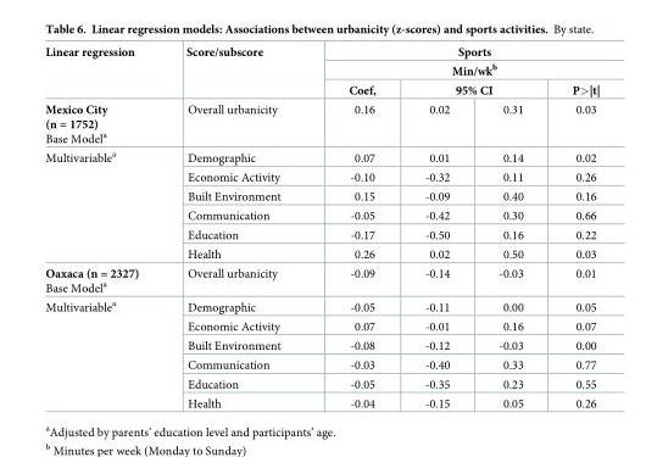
<table><thead><tr><td rowspan="4">Linear regression Mexico City (n = 1752) Base Model<sup>a</sup></td><td rowspan="4">Score/subscore Overall urbanicity</td><td rowspan="2" colspan="4">Sports Min/wk<sup>b</sup></td></tr><tr></tr><tr><td rowspan="2">Coef, 0.16</td><td colspan="2">95% CI</td><td rowspan="2">P&gt;|t| 0.03</td></tr><tr><td>0.02</td><td>0.31</td></tr></thead><tbody><tr><td rowspan="6">Multivariable<sup>a</sup></td><td>Demographic</td><td>0.07</td><td>0.01</td><td>0.14</td><td>0.02</td></tr><tr><td>Economic Activity</td><td>-0.10</td><td>-0.32</td><td>0.11</td><td>0.26</td></tr><tr><td>Built Environment</td><td>0.15</td><td>-0.09</td><td>0.40</td><td>0.16</td></tr><tr><td>Communication</td><td>-0.05</td><td>-0.42</td><td>0.30</td><td>0.66</td></tr><tr><td>Education</td><td>-0.17</td><td>-0.50</td><td>0.16</td><td>0.22</td></tr><tr><td>Health</td><td>0.26</td><td>0.02</td><td>0.50</td><td>0.03</td></tr><tr><td>Oaxaca (n = 2327) Base Model<sup>a</sup></td><td>Overall urbanicity</td><td>-0.09</td><td>-0.14</td><td>-0.03</td><td>0.01</td></tr><tr><td rowspan="6">Multivariable<sup>a</sup></td><td>Demographic</td><td>-0.05</td><td>-0.11</td><td>0.00</td><td>0.05</td></tr><tr><td>Economic Activity</td><td>0.07</td><td>-0.01</td><td>0.16</td><td>0.07</td></tr><tr><td>Built Environment</td><td>-0.08</td><td>-0.12</td><td>-0.03</td><td>0.00</td></tr><tr><td>Communication</td><td>-0.03</td><td>-0.40</td><td>0.33</td><td>0.77</td></tr><tr><td>Education</td><td>-0.05</td><td>-0.35</td><td>0.23</td><td>0.55</td></tr><tr><td>Health</td><td>-0.04</td><td>-0.15</td><td>0.05</td><td>0.26</td></tr></tbody></table>